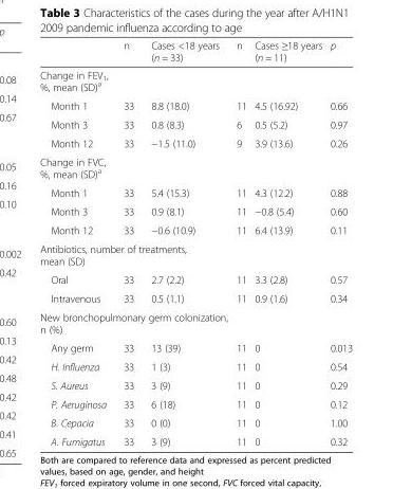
<table><thead><tr><td></td><td>n</td><td>Cases &lt;18 years (n = 33)</td><td>n</td><td>Cases ≥18 years (n = 11)</td><td>p</td></tr></thead><tbody><tr><td colspan="6">Change in FEV<sub>1</sub>, %, mean (SD)<sup>a</sup></td></tr><tr><td>Month 1</td><td>33</td><td>8.8 (18.0)</td><td>11</td><td>4.5 (16.92)</td><td>0.66</td></tr><tr><td>Month 3</td><td>33</td><td>0.8 (8.3)</td><td>6</td><td>0.5 (5.2)</td><td>0.97</td></tr><tr><td>Month 12</td><td>33</td><td>−1.5 (11.0)</td><td>9</td><td>3.9 (13.6)</td><td>0.26</td></tr><tr><td colspan="6">Change in FVC, %, mean (SD)<sup>a</sup></td></tr><tr><td>Month 1</td><td>33</td><td>5.4 (15.3)</td><td>11</td><td>4.3 (12.2)</td><td>0.88</td></tr><tr><td>Month 3</td><td>33</td><td>0.9 (8.1)</td><td>11</td><td>−0.8 (5.4)</td><td>0.60</td></tr><tr><td>Month 12</td><td>33</td><td>−0.6 (10.9)</td><td>11</td><td>6.4 (13.9)</td><td>0.11</td></tr><tr><td colspan="6">Antibiotics, number of treatments, mean (SD)</td></tr><tr><td>Oral</td><td>33</td><td>2.7 (2.2)</td><td>11</td><td>3.3 (2.8)</td><td>0.57</td></tr><tr><td>Intravenous</td><td>33</td><td>0.5 (1.1)</td><td>11</td><td>0.9 (1.6)</td><td>0.34</td></tr><tr><td colspan="6">New bronchopulmonary germ colonization, n (%)</td></tr><tr><td>Any germ</td><td>33</td><td>13 (39)</td><td>11</td><td>0</td><td>0.013</td></tr><tr><td>H. Influenza</td><td>33</td><td>1 (3)</td><td>11</td><td>0</td><td>0.54</td></tr><tr><td>S. Aureus</td><td>33</td><td>3 (9)</td><td>11</td><td>0</td><td>0.29</td></tr><tr><td>P. Aeruginosa</td><td>33</td><td>6 (18)</td><td>11</td><td>0</td><td>0.12</td></tr><tr><td>B. Cepacia</td><td>33</td><td>0 (0)</td><td>11</td><td>0</td><td>1.00</td></tr><tr><td>A. Fumigatus</td><td>33</td><td>3 (9)</td><td>11</td><td>0</td><td>0.32</td></tr></tbody></table>